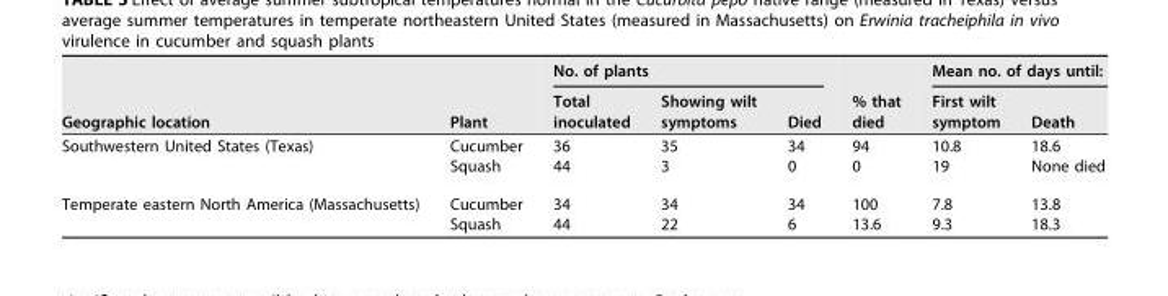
<table><thead><tr><td rowspan="2">Geographic location</td><td rowspan="2">Plant</td><td colspan="3">No. of plants</td><td rowspan="2">% that died</td><td colspan="2">Mean no. of days until:</td></tr><tr><td>Total inoculated</td><td>Showing wilt symptoms</td><td>Died</td><td>First wilt symptom</td><td>Death</td></tr></thead><tbody><tr><td rowspan="2">Southwestern United States (Texas)</td><td>Cucumber</td><td>36</td><td>35</td><td>34</td><td>94</td><td>10.8</td><td>18.6</td></tr><tr><td>Squash</td><td>44</td><td>3</td><td>0</td><td>0</td><td>19</td><td>None died</td></tr><tr><td rowspan="2">Temperate eastern North America (Massachusetts)</td><td>Cucumber</td><td>34</td><td>34</td><td>34</td><td>100</td><td>7.8</td><td>13.8</td></tr><tr><td>Squash</td><td>44</td><td>22</td><td>6</td><td>13.6</td><td>9.3</td><td>18.3</td></tr></tbody></table>